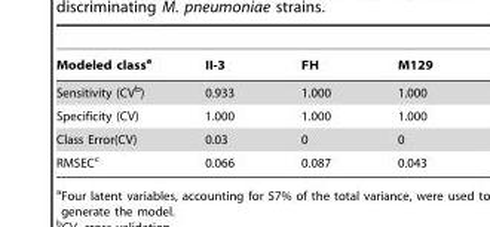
<table><thead><tr><td>Modeled class<sup>a</sup></td><td>II-3</td><td>FH</td><td>M129</td></tr></thead><tbody><tr><td>Sensitivity (CV<sup>b</sup>)</td><td>0.933</td><td>1.000</td><td>1.000</td></tr><tr><td>Specificity (CV)</td><td>1.000</td><td>1.000</td><td>1.000</td></tr><tr><td>Class Error(CV)</td><td>0.03</td><td>0</td><td>0</td></tr><tr><td>RMSEC<sup>c</sup></td><td>0.066</td><td>0.087</td><td>0.043</td></tr></tbody></table>